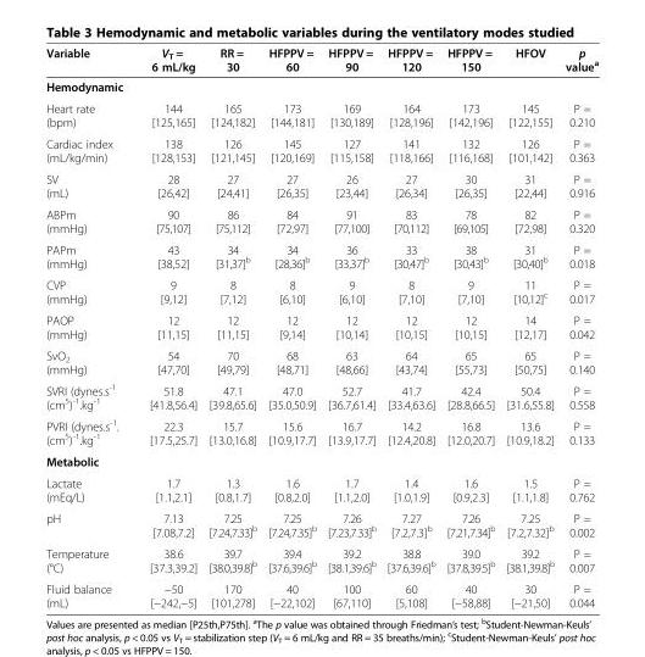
<table><thead><tr><td>Variable</td><td>V<sub>T</sub> = 6 mL/kg</td><td>RR = 30</td><td>HFPPV = 60</td><td>HFPPV = 90</td><td>HFPPV = 120</td><td>HFPPV = 150</td><td>HFOV</td><td>p value<sup>a</sup></td></tr></thead><tbody><tr><td colspan="9">Hemodynamic</td></tr><tr><td>Heart rate (bpm)</td><td>144 [125,165]</td><td>165 [124,182]</td><td>173 [144,181]</td><td>169 [130,189]</td><td>164 [128,196]</td><td>173 [142,196]</td><td>145 [122,155]</td><td>P = 0.210</td></tr><tr><td>Cardiac index (mL/kg/min)</td><td>138 [128,153]</td><td>126 [121,145]</td><td>145 [120,169]</td><td>127 [115,158]</td><td>141 [118,166]</td><td>132 [116,168]</td><td>126 [101,142]</td><td>P = 0.363</td></tr><tr><td>SV (mL)</td><td>28 [26,42]</td><td>27 [24,41]</td><td>27 [26,35]</td><td>26 [23,44]</td><td>27 [26,34]</td><td>30 [26,35]</td><td>31 [22,44]</td><td>P = 0.916</td></tr><tr><td>ABPm (mmHg)</td><td>90 [75,107]</td><td>86 [75,112]</td><td>84 [72,97]</td><td>91 [77,100]</td><td>83 [70,112]</td><td>78 [69,105]</td><td>82 [72,98]</td><td>P = 0.320</td></tr><tr><td>PAPm (mmHg)</td><td>43 [38,52]</td><td>34 [31,37]<sup>b</sup></td><td>34 [28,36]<sup>b</sup></td><td>36 [33,37]<sup>b</sup></td><td>33 [30,47]<sup>b</sup></td><td>38 [30,43]<sup>b</sup></td><td>31 [30,40]<sup>b</sup></td><td>P = 0.018</td></tr><tr><td>CVP (mmHg)</td><td>9 [9,12]</td><td>8 [7,12]</td><td>8 [6,10]</td><td>9 [6,10]</td><td>8 [7,10]</td><td>9 [7,10]</td><td>11 [10,12]<sup>c</sup></td><td>P = 0.017</td></tr><tr><td>PAOP (mmHg)</td><td>12 [11,15]</td><td>12 [11,15]</td><td>12 [9,14]</td><td>12 [10,14]</td><td>12 [10,15]</td><td>12 [10,15]</td><td>14 [12,17]</td><td>P = 0.042</td></tr><tr><td>SvO<sub>2</sub> (mmHg)</td><td>54 [47,70]</td><td>70 [49,79]</td><td>68 [48,71]</td><td>63 [48,66]</td><td>64 [43,74]</td><td>65 [55,73]</td><td>65 [50,75]</td><td>P = 0.140</td></tr><tr><td>SVRI (dynes.s<sup>-1</sup> (cm<sup>5</sup>)<sup>-1</sup>.kg<sup>-1</sup></td><td>51.8 [41.8,56.4]</td><td>47.1 [39.8,65.6]</td><td>47.0 [35.0,50.9]</td><td>52.7 [36.7,61.4]</td><td>41.7 [33.4,63.6]</td><td>42.4 [28.8,66.5]</td><td>50.4 [31.6,55.8]</td><td>P = 0.558</td></tr><tr><td>PVRI (dynes.s<sup>-1</sup>. (cm<sup>5</sup>)<sup>-1</sup>.kg<sup>-1</sup></td><td>22.3 [17.5,25.7]</td><td>15.7 [13.0,16.8]</td><td>15.6 [10.9,17.7]</td><td>16.7 [13.9,17.7]</td><td>14.2 [12.4,20.8]</td><td>16.8 [12.0,20.7]</td><td>13.6 [10.9,18.2]</td><td>P = 0.133</td></tr><tr><td colspan="9">Metabolic</td></tr><tr><td>Lactate (mEq/L)</td><td>1.7 [1.1,2.1]</td><td>1.3 [0.8,1.7]</td><td>1.6 [0.8,2.0]</td><td>1.7 [1.1,2.0]</td><td>1.4 [1.0,1.9]</td><td>1.6 [0.9,2.3]</td><td>1.5 [1.1,1.8]</td><td>P = 0.762</td></tr><tr><td>pH</td><td>7.13 [7.08,7.2]</td><td>7.25 [7.24,7.33]<sup>b</sup></td><td>7.25 [7.24,7.35]<sup>b</sup></td><td>7.26 [7.23,7.33]<sup>b</sup></td><td>7.27 [7.2,7.3]<sup>b</sup></td><td>7.26 [7.21,7.34]<sup>b</sup></td><td>7.25 [7.2,7.32]<sup>b</sup></td><td>P = 0.002</td></tr><tr><td>Temperature (°C)</td><td>38.6 [37.3,39.2]</td><td>39.7 [38.0,39.8]<sup>b</sup></td><td>39.4 [37.6,39.6]<sup>b</sup></td><td>39.2 [38.1,39.6]<sup>b</sup></td><td>38.8 [37.6,39.6]<sup>b</sup></td><td>39.0 [37.8,39.5]<sup>b</sup></td><td>39.2 [38.1,39.8]<sup>b</sup></td><td>P = 0.007</td></tr><tr><td>Fluid balance (mL)</td><td>−50 [−242,−5]</td><td>170 [101,278]</td><td>40 [−22,102]</td><td>100 [67,110]</td><td>60 [5,108]</td><td>40 [−58,88]</td><td>30 [−21,50]</td><td>P = 0.044</td></tr></tbody></table>